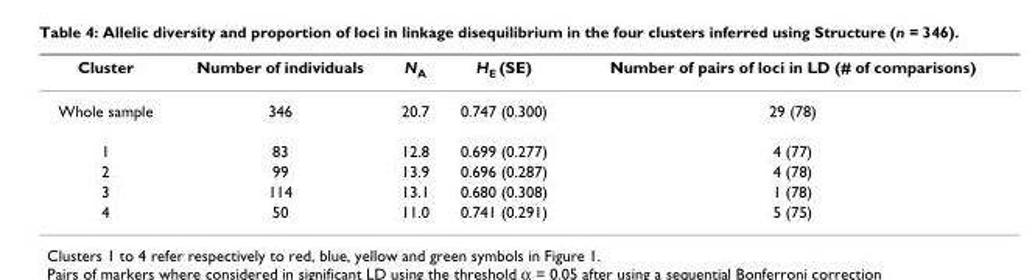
<table><thead><tr><td>Cluster</td><td>Number of individuals</td><td>NA</td><td>HE (SE)</td><td>Number of pairs of loci in LD (# of comparisons)</td></tr></thead><tbody><tr><td>Whole sample</td><td>346</td><td>20.7</td><td>0.747 (0.300)</td><td>29 (78)</td></tr><tr><td>1</td><td>83</td><td>12.8</td><td>0.699 (0.277)</td><td>4 (77)</td></tr><tr><td>2</td><td>99</td><td>13.9</td><td>0.696 (0.287)</td><td>4 (78)</td></tr><tr><td>3</td><td>114</td><td>13.1</td><td>0.680 (0.308)</td><td>1 (78)</td></tr><tr><td>4</td><td>50</td><td>11.0</td><td>0.741 (0.291)</td><td>5 (75)</td></tr></tbody></table>